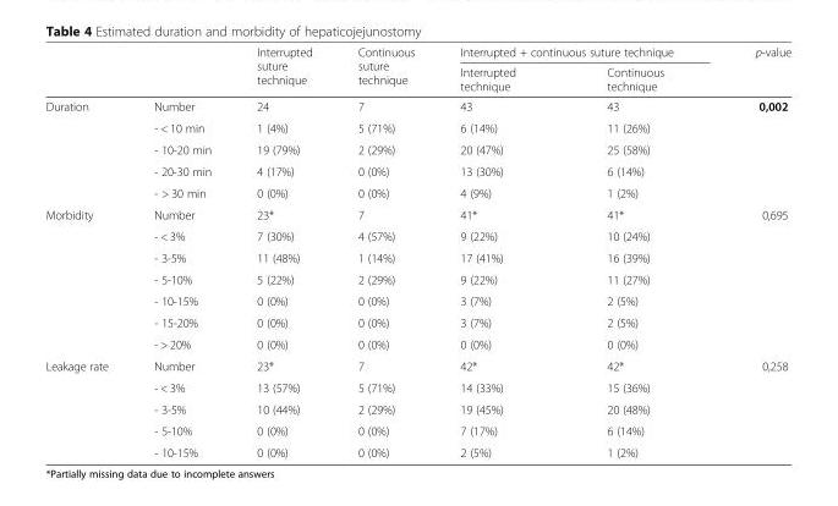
<table><thead><tr><td rowspan="2"></td><td rowspan="2"></td><td rowspan="2">Interrupted suture technique</td><td rowspan="2">Continuous suture technique</td><td colspan="2">Interrupted + continuous suture technique</td><td rowspan="2">p-value</td></tr><tr><td>Interrupted technique</td><td>Continuous technique</td></tr></thead><tbody><tr><td rowspan="5">Duration</td><td>Number</td><td>24</td><td>7</td><td>43</td><td>43</td><td rowspan="5">0,002</td></tr><tr><td>- &lt; 10 min</td><td>1 (4%)</td><td>5 (71%)</td><td>6 (14%)</td><td>11 (26%)</td></tr><tr><td>- 10-20 min</td><td>19 (79%)</td><td>2 (29%)</td><td>20 (47%)</td><td>25 (58%)</td></tr><tr><td>- 20-30 min</td><td>4 (17%)</td><td>0 (0%)</td><td>13 (30%)</td><td>6 (14%)</td></tr><tr><td>- &gt; 30 min</td><td>0 (0%)</td><td>0 (0%)</td><td>4 (9%)</td><td>1 (2%)</td></tr><tr><td rowspan="7">Morbidity</td><td>Number</td><td>23*</td><td>7</td><td>41*</td><td>41*</td><td rowspan="7">0,695</td></tr><tr><td>- &lt; 3%</td><td>7 (30%)</td><td>4 (57%)</td><td>9 (22%)</td><td>10 (24%)</td></tr><tr><td>- 3-5%</td><td>11 (48%)</td><td>1 (14%)</td><td>17 (41%)</td><td>16 (39%)</td></tr><tr><td>- 5-10%</td><td>5 (22%)</td><td>2 (29%)</td><td>9 (22%)</td><td>11 (27%)</td></tr><tr><td>- 10-15%</td><td>0 (0%)</td><td>0 (0%)</td><td>3 (7%)</td><td>2 (5%)</td></tr><tr><td>- 15-20%</td><td>0 (0%)</td><td>0 (0%)</td><td>3 (7%)</td><td>2 (5%)</td></tr><tr><td>- &gt; 20%</td><td>0 (0%)</td><td>0 (0%)</td><td>0 (0%)</td><td>0 (0%)</td></tr><tr><td rowspan="5">Leakage rate</td><td>Number</td><td>23*</td><td>7</td><td>42*</td><td>42*</td><td rowspan="5">0,258</td></tr><tr><td>- &lt; 3%</td><td>13 (57%)</td><td>5 (71%)</td><td>14 (33%)</td><td>15 (36%)</td></tr><tr><td>- 3-5%</td><td>10 (44%)</td><td>2 (29%)</td><td>19 (45%)</td><td>20 (48%)</td></tr><tr><td>- 5-10%</td><td>0 (0%)</td><td>0 (0%)</td><td>7 (17%)</td><td>6 (14%)</td></tr><tr><td>- 10-15%</td><td>0 (0%)</td><td>0 (0%)</td><td>2 (5%)</td><td>1 (2%)</td></tr></tbody></table>